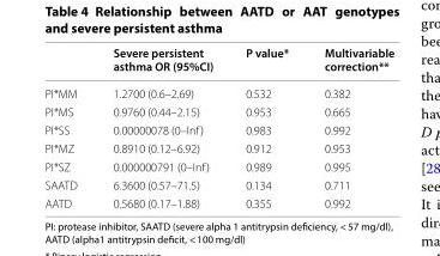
<table><thead><tr><td></td><td>Severe persistent asthma OR (95%CI)</td><td>P value*</td><td>Multivariable correction**</td></tr></thead><tbody><tr><td>PI*MM</td><td>1.2700 (0.6–2.69)</td><td>0.532</td><td>0.382</td></tr><tr><td>PI*MS</td><td>0.9760 (0.44–2.15)</td><td>0.953</td><td>0.665</td></tr><tr><td>PI*SS</td><td>0.00000078 (0–Inf)</td><td>0.983</td><td>0.992</td></tr><tr><td>PI*MZ</td><td>0.8910 (0.12–6.92)</td><td>0.912</td><td>0.953</td></tr><tr><td>PI*SZ</td><td>0.000000791 (0–Inf)</td><td>0.989</td><td>0.995</td></tr><tr><td>SAATD</td><td>6.3600 (0.57–71.5)</td><td>0.134</td><td>0.711</td></tr><tr><td>AATD</td><td>0.5680 (0.17–1.88)</td><td>0.355</td><td>0.992</td></tr></tbody></table>